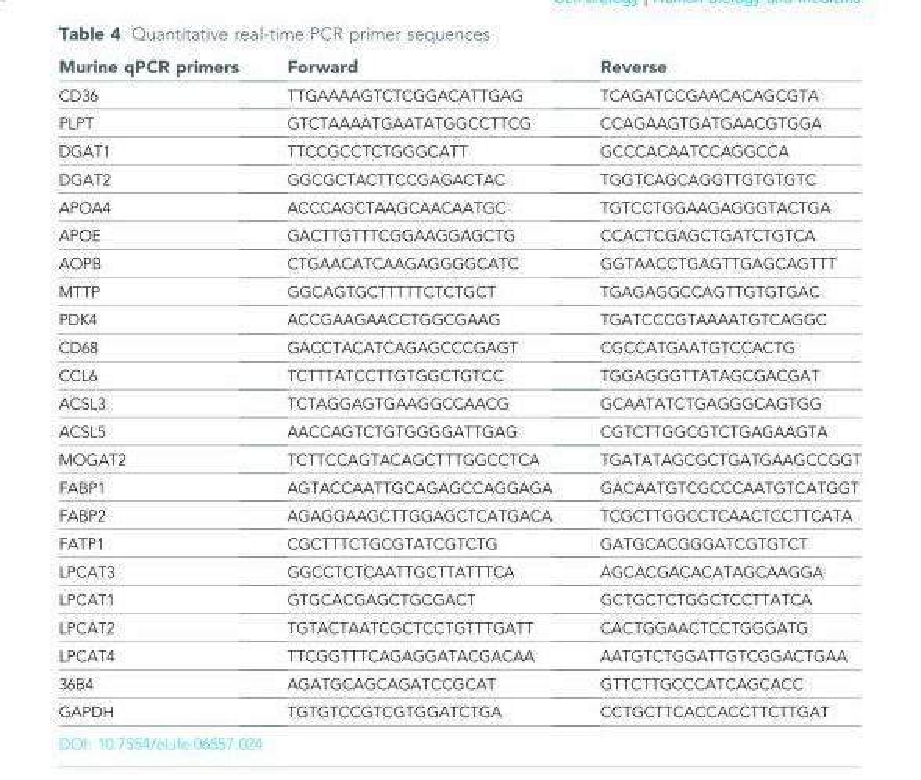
<table><thead><tr><td>Murine qPCR primers</td><td>Forward</td><td>Reverse</td></tr></thead><tbody><tr><td>CD36</td><td>TTGAAAAGTCTCGGACATTGAG</td><td>TCAGATCCGAACACAGCGTA</td></tr><tr><td>PLPT</td><td>GTCTAAAATGAATATGGCCTTCG</td><td>CCAGAAGTGATGAACGTGGA</td></tr><tr><td>DGAT1</td><td>TTCCGCCTCTGGGCATT</td><td>GCCCACAATCCAGGCCA</td></tr><tr><td>DGAT2</td><td>GGCGCTACTTCCGAGACTAC</td><td>TGGTCAGCAGGTTGTGTGTC</td></tr><tr><td>APOA4</td><td>ACCCAGCTAAGCAACAATGC</td><td>TGTCCTGGAAGAGGGTACTGA</td></tr><tr><td>APOE</td><td>GACTTGTTTCGGAAGGAGCTG</td><td>CCACTCGAGCTGATCTGTCA</td></tr><tr><td>AOPB</td><td>CTGAACATCAAGAGGGGCATC</td><td>GGTAACCTGAGTTGAGCAGTTT</td></tr><tr><td>MTTP</td><td>GGCAGTGCTTTTTCTCTGCT</td><td>TGAGAGGCCAGTTGTGTGAC</td></tr><tr><td>PDK4</td><td>ACCGAAGAACCTGGCGAAG</td><td>TGATCCCGTAAAATGTCAGGC</td></tr><tr><td>CD68</td><td>GACCTACATCAGAGCCCGAGT</td><td>CGCCATGAATGTCCACTG</td></tr><tr><td>CCL6</td><td>TCTTTATCCTTGTGGCTGTCC</td><td>TGGAGGGTTATAGCGACGAT</td></tr><tr><td>ACSL3</td><td>TCTAGGAGTGAAGGCCAACG</td><td>GCAATATCTGAGGGCAGTGG</td></tr><tr><td>ACSL5</td><td>AACCAGTCTGTGGGGATTGAG</td><td>CGTCTTGGCGTCTGAGAAGTA</td></tr><tr><td>MOGAT2</td><td>TCTTCCAGTACAGCTTTGGCCTCA</td><td>TGATATAGCGCTGATGAAGCCGGT</td></tr><tr><td>FABP1</td><td>AGTACCAATTGCAGAGCCAGGAGA</td><td>GACAATGTCGCCCAATGTCATGGT</td></tr><tr><td>FABP2</td><td>AGAGGAAGCTTGGAGCTCATGACA</td><td>TCGCTTGGCCTCAACTCCTTCATA</td></tr><tr><td>FATP1</td><td>CGCTTTCTGCGTATCGTCTG</td><td>GATGCACGGGATCGTGTCT</td></tr><tr><td>LPCAT3</td><td>GGCCTCTCAATTGCTTATTTCA</td><td>AGCACGACACATAGCAAGGA</td></tr><tr><td>LPCAT1</td><td>GTGCACGAGCTGCGACT</td><td>GCTGCTCTGGCTCCTTATCA</td></tr><tr><td>LPCAT2</td><td>TGTACTAATCGCTCCTGTTTGATT</td><td>CACTGGAACTCCTGGGATG</td></tr><tr><td>LPCAT4</td><td>TTCGGTTTCAGAGGATACGACAA</td><td>AATGTCTGGATTGTCGGACTGAA</td></tr><tr><td>36B4</td><td>AGATGCAGCAGATCCGCAT</td><td>GTTCTTGCCCATCAGCACC</td></tr><tr><td>GAPDH</td><td>TGTGTCCGTCGTGGATCTGA</td><td>CCTGCTTCACCACCTTCTTGAT</td></tr></tbody></table>